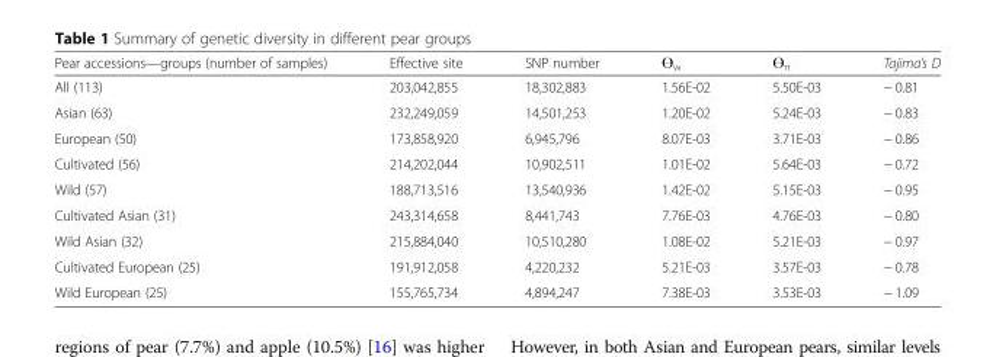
<table><thead><tr><td>Pear accessions—groups (number of samples)</td><td>Effective site</td><td>SNP number</td><td>ϴ<sub>w</sub></td><td>ϴ<sub>π</sub></td><td>Tajima’s D</td></tr></thead><tbody><tr><td>All (113)</td><td>203,042,855</td><td>18,302,883</td><td>1.56E-02</td><td>5.50E-03</td><td>− 0.81</td></tr><tr><td>Asian (63)</td><td>232,249,059</td><td>14,501,253</td><td>1.20E-02</td><td>5.24E-03</td><td>− 0.83</td></tr><tr><td>European (50)</td><td>173,858,920</td><td>6,945,796</td><td>8.07E-03</td><td>3.71E-03</td><td>− 0.86</td></tr><tr><td>Cultivated (56)</td><td>214,202,044</td><td>10,902,511</td><td>1.01E-02</td><td>5.64E-03</td><td>− 0.72</td></tr><tr><td>Wild (57)</td><td>188,713,516</td><td>13,540,936</td><td>1.42E-02</td><td>5.15E-03</td><td>− 0.95</td></tr><tr><td>Cultivated Asian (31)</td><td>243,314,658</td><td>8,441,743</td><td>7.76E-03</td><td>4.76E-03</td><td>− 0.80</td></tr><tr><td>Wild Asian (32)</td><td>215,884,040</td><td>10,510,280</td><td>1.08E-02</td><td>5.21E-03</td><td>− 0.97</td></tr><tr><td>Cultivated European (25)</td><td>191,912,058</td><td>4,220,232</td><td>5.21E-03</td><td>3.57E-03</td><td>− 0.78</td></tr><tr><td>Wild European (25)</td><td>155,765,734</td><td>4,894,247</td><td>7.38E-03</td><td>3.53E-03</td><td>− 1.09</td></tr></tbody></table>